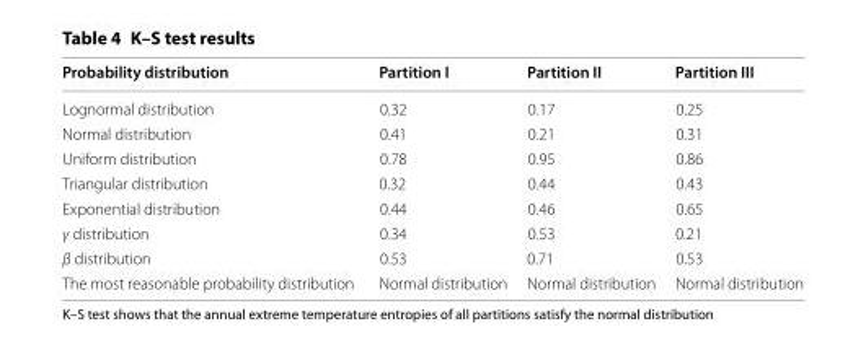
<table><thead><tr><td>Probability distribution</td><td>Partition I</td><td>Partition II</td><td>Partition III</td></tr></thead><tbody><tr><td>Lognormal distribution</td><td>0.32</td><td>0.17</td><td>0.25</td></tr><tr><td>Normal distribution</td><td>0.41</td><td>0.21</td><td>0.31</td></tr><tr><td>Uniform distribution</td><td>0.78</td><td>0.95</td><td>0.86</td></tr><tr><td>Triangular distribution</td><td>0.32</td><td>0.44</td><td>0.43</td></tr><tr><td>Exponential distribution</td><td>0.44</td><td>0.46</td><td>0.65</td></tr><tr><td>γ distribution</td><td>0.34</td><td>0.53</td><td>0.21</td></tr><tr><td>β distribution</td><td>0.53</td><td>0.71</td><td>0.53</td></tr><tr><td>The most reasonable probability distribution</td><td>Normal distribution</td><td>Normal distribution</td><td>Normal distribution</td></tr></tbody></table>